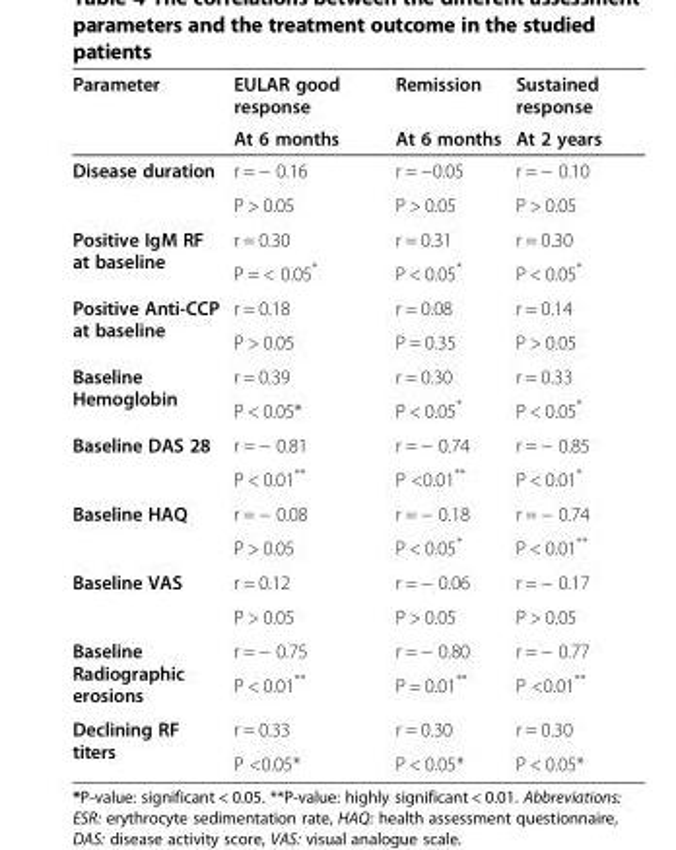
<table><thead><tr><td rowspan="2">Parameter</td><td rowspan="2">EULAR good response At 6 months</td><td rowspan="2">Remission At 6 months</td><td rowspan="2">Sustained response At 2 years</td></tr><tr></tr></thead><tbody><tr><td rowspan="2">Disease duration</td><td>r = − 0.16</td><td>r = −0.05</td><td>r = − 0.10</td></tr><tr><td>P &gt; 0.05</td><td>P &gt; 0.05</td><td>P &gt; 0.05</td></tr><tr><td rowspan="2">Positive IgM RF at baseline</td><td>r = 0.30</td><td>r = 0.31</td><td>r = 0.30</td></tr><tr><td>P = &lt; 0.05*</td><td>P &lt; 0.05*</td><td>P &lt; 0.05*</td></tr><tr><td rowspan="2">Positive Anti-CCP at baseline</td><td>r = 0.18</td><td>r = 0.08</td><td>r = 0.14</td></tr><tr><td>P &gt; 0.05</td><td>P = 0.35</td><td>P &gt; 0.05</td></tr><tr><td rowspan="2">Baseline Hemoglobin</td><td>r = 0.39</td><td>r = 0.30</td><td>r = 0.33</td></tr><tr><td>P &lt; 0.05*</td><td>P &lt; 0.05*</td><td>P &lt; 0.05*</td></tr><tr><td rowspan="2">Baseline DAS 28</td><td>r = − 0.81</td><td>r = − 0.74</td><td>r = − 0.85</td></tr><tr><td>P &lt; 0.01**</td><td>P &lt;0.01**</td><td>P &lt; 0.01*</td></tr><tr><td rowspan="2">Baseline HAQ</td><td>r = − 0.08</td><td>r = − 0.18</td><td>r = − 0.74</td></tr><tr><td>P &gt; 0.05</td><td>P &lt; 0.05*</td><td>P &lt; 0.01**</td></tr><tr><td rowspan="2">Baseline VAS</td><td>r = 0.12</td><td>r = − 0.06</td><td>r = − 0.17</td></tr><tr><td>P &gt; 0.05</td><td>P &gt; 0.05</td><td>P &gt; 0.05</td></tr><tr><td rowspan="2">Baseline Radiographic erosions</td><td>r = − 0.75</td><td>r = − 0.80</td><td>r = − 0.77</td></tr><tr><td>P &lt; 0.01**</td><td>P = 0.01**</td><td>P &lt;0.01**</td></tr><tr><td rowspan="2">Declining RF titers</td><td>r = 0.33</td><td>r = 0.30</td><td>r = 0.30</td></tr><tr><td>P &lt;0.05*</td><td>P &lt; 0.05*</td><td>P &lt; 0.05*</td></tr></tbody></table>